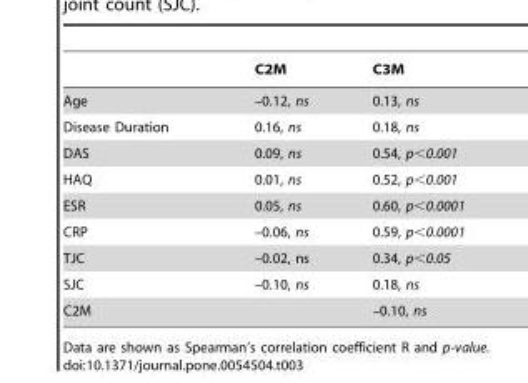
<table><thead><tr><td></td><td>C2M</td><td>C3M</td></tr></thead><tbody><tr><td>Age</td><td>–0.12, ns</td><td>0.13, ns</td></tr><tr><td>Disease Duration</td><td>0.16, ns</td><td>0.18, ns</td></tr><tr><td>DAS</td><td>0.09, ns</td><td>0.54, p&lt;0.001</td></tr><tr><td>HAQ</td><td>0.01, ns</td><td>0.52, p&lt;0.001</td></tr><tr><td>ESR</td><td>0.05, ns</td><td>0.60, p&lt;0.0001</td></tr><tr><td>CRP</td><td>–0.06, ns</td><td>0.59, p&lt;0.0001</td></tr><tr><td>TJC</td><td>–0.02, ns</td><td>0.34, p&lt;0.05</td></tr><tr><td>SJC</td><td>–0.10, ns</td><td>0.18, ns</td></tr><tr><td>C2M</td><td></td><td>–0.10, ns</td></tr></tbody></table>